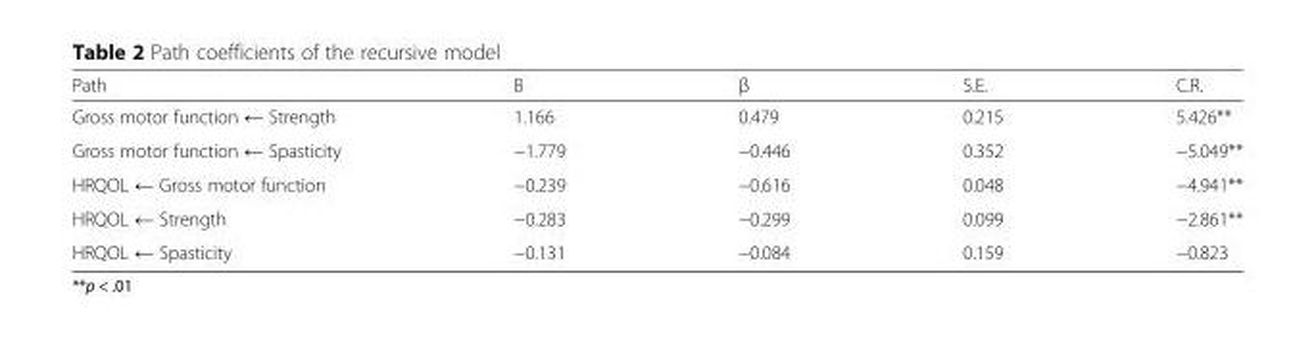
<table><thead><tr><td>Path</td><td>B</td><td>β</td><td>S.E.</td><td>C.R.</td></tr></thead><tbody><tr><td>Gross motor function ← Strength</td><td>1.166</td><td>0.479</td><td>0.215</td><td>5.426**</td></tr><tr><td>Gross motor function ← Spasticity</td><td>−1.779</td><td>−0.446</td><td>0.352</td><td>−5.049**</td></tr><tr><td>HRQOL ← Gross motor function</td><td>−0.239</td><td>−0.616</td><td>0.048</td><td>−4.941**</td></tr><tr><td>HRQOL ← Strength</td><td>−0.283</td><td>−0.299</td><td>0.099</td><td>−2.861**</td></tr><tr><td>HRQOL ← Spasticity</td><td>−0.131</td><td>−0.084</td><td>0.159</td><td>−0.823</td></tr></tbody></table>